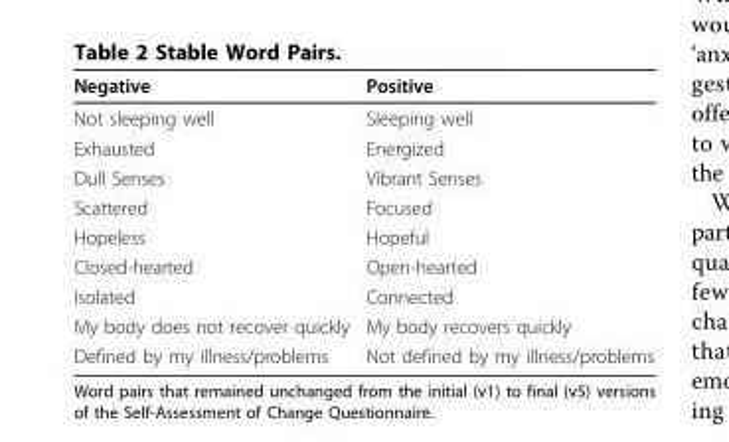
<table><thead><tr><td>Negative</td><td>Positive</td></tr></thead><tbody><tr><td>Not sleeping well</td><td>Sleeping well</td></tr><tr><td>Exhausted</td><td>Energized</td></tr><tr><td>Dull Senses</td><td>Vibrant Senses</td></tr><tr><td>Scattered</td><td>Focused</td></tr><tr><td>Hopeless</td><td>Hopeful</td></tr><tr><td>Closed-hearted</td><td>Open-hearted</td></tr><tr><td>Isolated</td><td>Connected</td></tr><tr><td>My body does not recover quickly</td><td>My body recovers quickly</td></tr><tr><td>Defined by my illness/problems</td><td>Not defined by my illness/problems</td></tr></tbody></table>